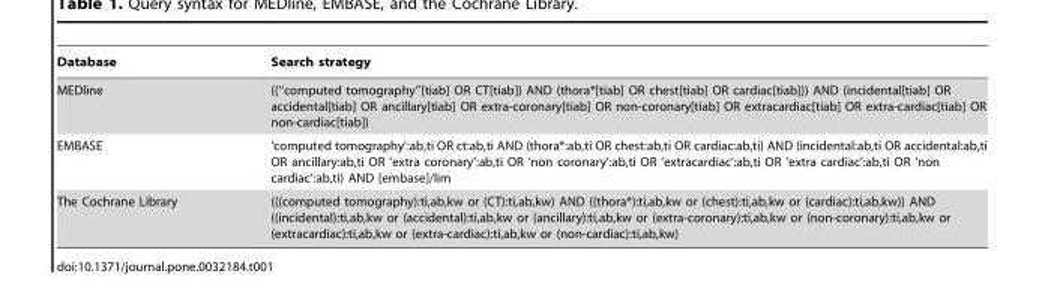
<table><thead><tr><td>Database</td><td>Search strategy</td></tr></thead><tbody><tr><td>MEDline</td><td>((‘‘computed tomography’’[tiab] OR CT[tiab]) AND (thora*[tiab] OR chest[tiab] OR cardiac[tiab])) AND (incidental[tiab] OR accidental[tiab] OR ancillary[tiab] OR extra-coronary[tiab] OR non-coronary[tiab] OR extracardiac[tiab] OR extra-cardiac[tiab] OR non-cardiac[tiab])</td></tr><tr><td>EMBASE</td><td>‘computed tomography’:ab,ti OR ct:ab,ti AND (thora*:ab,ti OR chest:ab,ti OR cardiac:ab,ti) AND (incidental:ab,ti OR accidental:ab,ti OR ancillary:ab,ti OR ‘extra coronary’:ab,ti OR ‘non coronary’:ab,ti OR ‘extracardiac’:ab,ti OR ‘extra cardiac’:ab,ti OR ‘non cardiac’:ab,ti) AND [embase]/lim</td></tr><tr><td>The Cochrane Library</td><td>(((computed tomography):ti,ab,kw or (CT):ti,ab,kw) AND ((thora*):ti,ab,kw or (chest):ti,ab,kw or (cardiac):ti,ab,kw)) AND ((incidental):ti,ab,kw or (accidental):ti,ab,kw or (ancillary):ti,ab,kw or (extra-coronary):ti,ab,kw or (non-coronary):ti,ab,kw or (extracardiac):ti,ab,kw or (extra-cardiac):ti,ab,kw or (non-cardiac):ti,ab,kw)</td></tr></tbody></table>